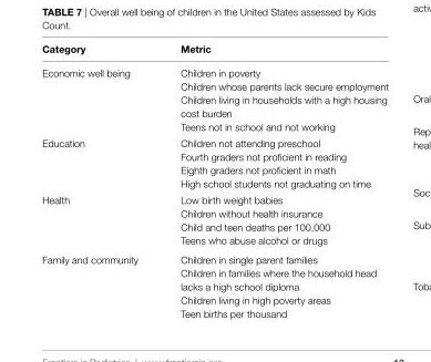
<table><thead><tr><td>Category</td><td>Metric</td></tr></thead><tbody><tr><td rowspan="4">Economic well being</td><td>Children in poverty</td></tr><tr><td>Children whose parents lack secure employment</td></tr><tr><td>Children living in households with a high housing cost burden</td></tr><tr><td>Teens not in school and not working</td></tr><tr><td rowspan="4">Education</td><td>Children not attending preschool</td></tr><tr><td>Fourth graders not proficient in reading</td></tr><tr><td>Eighth graders not proficient in math</td></tr><tr><td>High school students not graduating on time</td></tr><tr><td rowspan="4">Health</td><td>Low birth weight babies</td></tr><tr><td>Children without health insurance</td></tr><tr><td>Child and teen deaths per 100,000</td></tr><tr><td>Teens who abuse alcohol or drugs</td></tr><tr><td rowspan="4">Family and community</td><td>Children in single parent families</td></tr><tr><td>Children in families where the household head lacks a high school diploma</td></tr><tr><td>Children living in high poverty areas</td></tr><tr><td>Teen births per thousand</td></tr></tbody></table>